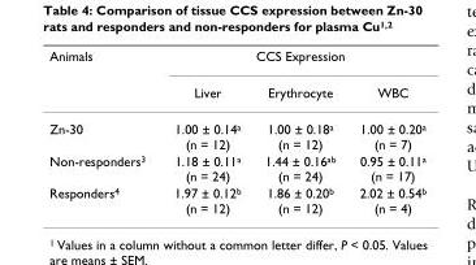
<table><thead><tr><td rowspan="2">Animals</td><td colspan="3">CCS Expression</td></tr><tr><td>Liver</td><td>Erythrocyte</td><td>WBC</td></tr></thead><tbody><tr><td>Zn-30</td><td>1.00 ± 0.14<sup>a</sup> (n = 12)</td><td>1.00 ± 0.18<sup>a</sup> (n = 12)</td><td>1.00 ± 0.20<sup>a</sup> (n = 7)</td></tr><tr><td>Non-responders<sup>3</sup></td><td>1.18 ± 0.11<sup>a</sup> (n = 24)</td><td>1.44 ± 0.16<sup>ab</sup> (n = 24)</td><td>0.95 ± 0.11<sup>a</sup> (n = 17)</td></tr><tr><td>Responders<sup>4</sup></td><td>1.97 ± 0.12<sup>b</sup> (n = 12)</td><td>1.86 ± 0.20<sup>b</sup> (n = 12)</td><td>2.02 ± 0.54<sup>b</sup> (n = 4)</td></tr></tbody></table>